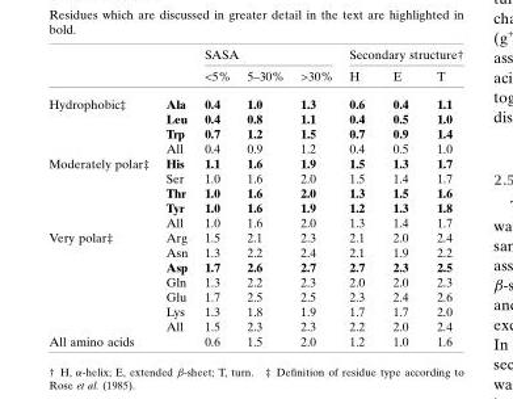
<table><thead><tr><td rowspan="2"></td><td rowspan="2"></td><td colspan="3">SASA</td><td colspan="3">Secondary structure†</td></tr><tr><td>&lt;5%</td><td>5–30%</td><td>&gt;30%</td><td>H</td><td>E</td><td>T</td></tr></thead><tbody><tr><td rowspan="4">Hydrophobic‡</td><td>Ala</td><td>0.4</td><td>1.0</td><td>1.3</td><td>0.6</td><td>0.4</td><td>1.1</td></tr><tr><td>Leu</td><td>0.4</td><td>0.8</td><td>1.1</td><td>0.4</td><td>0.5</td><td>1.0</td></tr><tr><td>Trp</td><td>0.7</td><td>1.2</td><td>1.5</td><td>0.7</td><td>0.9</td><td>1.4</td></tr><tr><td>All</td><td>0.4</td><td>0.9</td><td>1.2</td><td>0.4</td><td>0.5</td><td>1.0</td></tr><tr><td rowspan="5">Moderately polar‡</td><td>His</td><td>1.1</td><td>1.6</td><td>1.9</td><td>1.5</td><td>1.3</td><td>1.7</td></tr><tr><td>Ser</td><td>1.0</td><td>1.6</td><td>2.0</td><td>1.5</td><td>1.4</td><td>1.7</td></tr><tr><td>Thr</td><td>1.0</td><td>1.6</td><td>2.0</td><td>1.3</td><td>1.5</td><td>1.6</td></tr><tr><td>Tyr</td><td>1.0</td><td>1.6</td><td>1.9</td><td>1.2</td><td>1.3</td><td>1.8</td></tr><tr><td>All</td><td>1.0</td><td>1.6</td><td>2.0</td><td>1.3</td><td>1.4</td><td>1.7</td></tr><tr><td rowspan="7">Very polar‡</td><td>Arg</td><td>1.5</td><td>2.1</td><td>2.3</td><td>2.1</td><td>2.0</td><td>2.4</td></tr><tr><td>Asn</td><td>1.3</td><td>2.2</td><td>2.4</td><td>2.1</td><td>1.9</td><td>2.2</td></tr><tr><td>Asp</td><td>1.7</td><td>2.6</td><td>2.7</td><td>2.7</td><td>2.3</td><td>2.5</td></tr><tr><td>Gln</td><td>1.3</td><td>2.2</td><td>2.3</td><td>2.0</td><td>2.0</td><td>2.3</td></tr><tr><td>Glu</td><td>1.7</td><td>2.5</td><td>2.5</td><td>2.3</td><td>2.4</td><td>2.6</td></tr><tr><td>Lys</td><td>1.3</td><td>1.8</td><td>1.9</td><td>1.7</td><td>1.7</td><td>2.0</td></tr><tr><td>All</td><td>1.5</td><td>2.3</td><td>2.3</td><td>2.2</td><td>2.0</td><td>2.4</td></tr><tr><td>All amino acids</td><td></td><td>0.6</td><td>1.5</td><td>2.0</td><td>1.2</td><td>1.0</td><td>1.6</td></tr></tbody></table>